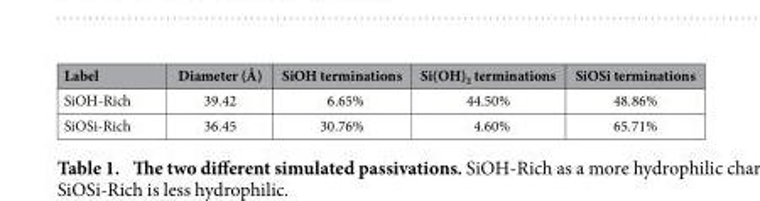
<table><thead><tr><td>Label</td><td>Diameter (Å)</td><td>SiOH terminations</td><td>Si(OH)<sub>2</sub> terminations</td><td>SiOSi terminations</td></tr></thead><tbody><tr><td>SiOH-Rich</td><td>39.42</td><td>6.65%</td><td>44.50%</td><td>48.86%</td></tr><tr><td>SiOSi-Rich</td><td>36.45</td><td>30.76%</td><td>4.60%</td><td>65.71%</td></tr></tbody></table>